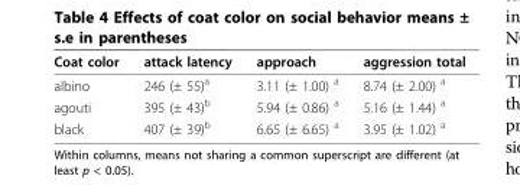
<table><thead><tr><td>Coat color</td><td>attack latency</td><td>approach</td><td>aggression total</td></tr></thead><tbody><tr><td>albino</td><td>246 (± 55)<sup>a</sup></td><td>3.11 (± 1.00) <sup>a</sup></td><td>8.74 (± 2.00) <sup>a</sup></td></tr><tr><td>agouti</td><td>395 (± 43)<sup>b</sup></td><td>5.94 (± 0.86) <sup>a</sup></td><td>5.16 (± 1.44) <sup>a</sup></td></tr><tr><td>black</td><td>407 (± 39)<sup>b</sup></td><td>6.65 (± 6.65) <sup>a</sup></td><td>3.95 (± 1.02) <sup>a</sup></td></tr></tbody></table>